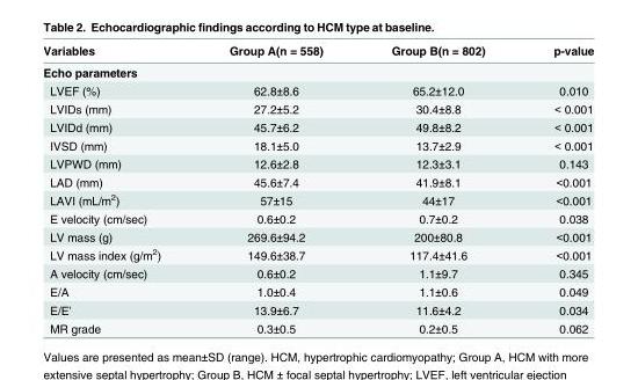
<table><thead><tr><td>Variables</td><td>Group A(n = 558)</td><td>Group B(n = 802)</td><td>p-value</td></tr></thead><tbody><tr><td colspan="4">Echo parameters</td></tr><tr><td>LVEF (%)</td><td>62.8±8.6</td><td>65.2±12.0</td><td>0.010</td></tr><tr><td>LVIDs (mm)</td><td>27.2±5.2</td><td>30.4±8.8</td><td>&lt; 0.001</td></tr><tr><td>LVIDd (mm)</td><td>45.7±6.2</td><td>49.8±8.2</td><td>&lt; 0.001</td></tr><tr><td>IVSD (mm)</td><td>18.1±5.0</td><td>13.7±2.9</td><td>&lt; 0.001</td></tr><tr><td>LVPWD (mm)</td><td>12.6±2.8</td><td>12.3±3.1</td><td>0.143</td></tr><tr><td>LAD (mm)</td><td>45.6±7.4</td><td>41.9±8.1</td><td>&lt;0.001</td></tr><tr><td>LAVI (mL/m<sup>2</sup>)</td><td>57±15</td><td>44±17</td><td>&lt;0.001</td></tr><tr><td>E velocity (cm/sec)</td><td>0.6±0.2</td><td>0.7±0.2</td><td>0.038</td></tr><tr><td>LV mass (g)</td><td>269.6±94.2</td><td>200±80.8</td><td>&lt;0.001</td></tr><tr><td>LV mass index (g/m<sup>2</sup>)</td><td>149.6±38.7</td><td>117.4±41.6</td><td>&lt;0.001</td></tr><tr><td>A velocity (cm/sec)</td><td>0.6±0.2</td><td>1.1±9.7</td><td>0.345</td></tr><tr><td>E/A</td><td>1.0±0.4</td><td>1.1±0.6</td><td>0.049</td></tr><tr><td>E/E’</td><td>13.9±6.7</td><td>11.6±4.2</td><td>0.034</td></tr><tr><td>MR grade</td><td>0.3±0.5</td><td>0.2±0.5</td><td>0.062</td></tr></tbody></table>